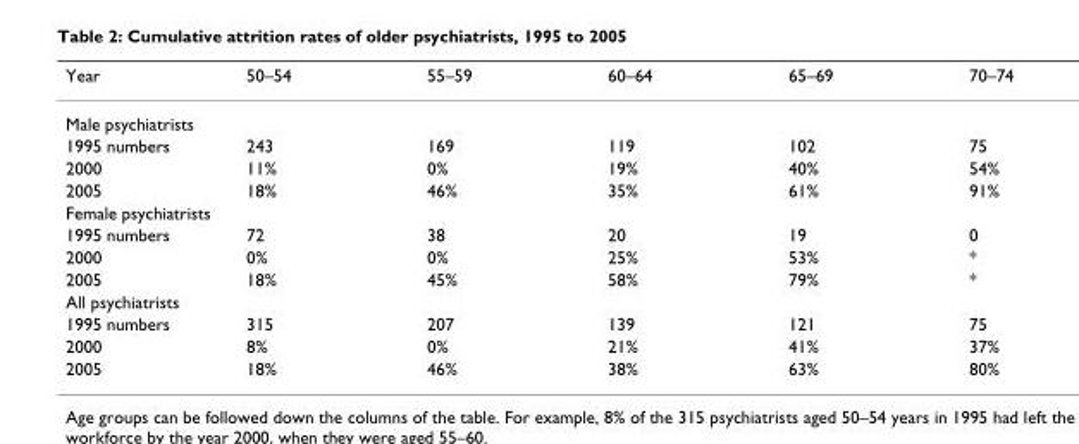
<table><thead><tr><td>Year</td><td>50–54</td><td>55–59</td><td>60–64</td><td>65–69</td><td>70–74</td></tr></thead><tbody><tr><td colspan="6">Male psychiatrists</td></tr><tr><td>1995 numbers</td><td>243</td><td>169</td><td>119</td><td>102</td><td>75</td></tr><tr><td>2000</td><td>11%</td><td>0%</td><td>19%</td><td>40%</td><td>54%</td></tr><tr><td>2005</td><td>18%</td><td>46%</td><td>35%</td><td>61%</td><td>91%</td></tr><tr><td colspan="6">Female psychiatrists</td></tr><tr><td>1995 numbers</td><td>72</td><td>38</td><td>20</td><td>19</td><td>0</td></tr><tr><td>2000</td><td>0%</td><td>0%</td><td>25%</td><td>53%</td><td>*</td></tr><tr><td>2005</td><td>18%</td><td>45%</td><td>58%</td><td>79%</td><td>*</td></tr><tr><td colspan="6">All psychiatrists</td></tr><tr><td>1995 numbers</td><td>315</td><td>207</td><td>139</td><td>121</td><td>75</td></tr><tr><td>2000</td><td>8%</td><td>0%</td><td>21%</td><td>41%</td><td>37%</td></tr><tr><td>2005</td><td>18%</td><td>46%</td><td>38%</td><td>63%</td><td>80%</td></tr></tbody></table>